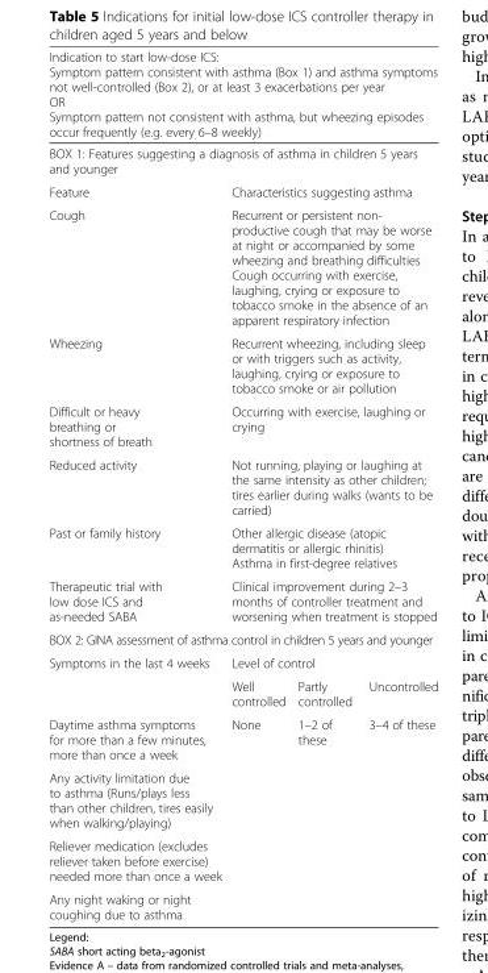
<table><thead><tr><td colspan="4">Indication to start low-dose ICS: Symptom pattern consistent with asthma (Box 1) and asthma symptoms not well-controlled (Box 2), or at least 3 exacerbations per year OR Symptom pattern not consistent with asthma, but wheezing episodes occur frequently (e.g. every 6–8 weekly)</td></tr></thead><tbody><tr><td colspan="4">BOX 1: Features suggesting a diagnosis of asthma in children 5 years and younger</td></tr><tr><td>Feature</td><td colspan="3">Characteristics suggesting asthma</td></tr><tr><td>Cough</td><td colspan="3">Recurrent or persistent non- productive cough that may be worse at night or accompanied by some wheezing and breathing difficulties Cough occurring with exercise, laughing, crying or exposure to tobacco smoke in the absence of an apparent respiratory infection</td></tr><tr><td>Wheezing</td><td colspan="3">Recurrent wheezing, including sleep or with triggers such as activity, laughing, crying or exposure to tobacco smoke or air pollution</td></tr><tr><td>Difficult or heavy breathing or shortness of breath</td><td colspan="3">Occurring with exercise, laughing or crying</td></tr><tr><td>Reduced activity</td><td colspan="3">Not running, playing or laughing at the same intensity as other children; tires earlier during walks (wants to be carried)</td></tr><tr><td>Past or family history</td><td colspan="3">Other allergic disease (atopic dermatitis or allergic rhinitis) Asthma in first-degree relatives</td></tr><tr><td>Therapeutic trial with low dose ICS and as-needed SABA</td><td colspan="3">Clinical improvement during 2–3 months of controller treatment and worsening when treatment is stopped</td></tr><tr><td colspan="4">BOX 2: GINA assessment of asthma control in children 5 years and younger</td></tr><tr><td rowspan="2">Symptoms in the last 4 weeks</td><td colspan="3">Level of control</td></tr><tr><td>Well controlled</td><td>Partly controlled</td><td>Uncontrolled</td></tr><tr><td>Daytime asthma symptoms for more than a few minutes, more than once a week</td><td rowspan="4">None</td><td rowspan="4">1–2 of these</td><td rowspan="4">3–4 of these</td></tr><tr><td>Any activity limitation due to asthma (Runs/plays less than other children, tires easily when walking/playing)</td></tr><tr><td>Reliever medication (excludes reliever taken before exercise) needed more than once a week</td></tr><tr><td>Any night waking or night coughing due to asthma</td></tr></tbody></table>